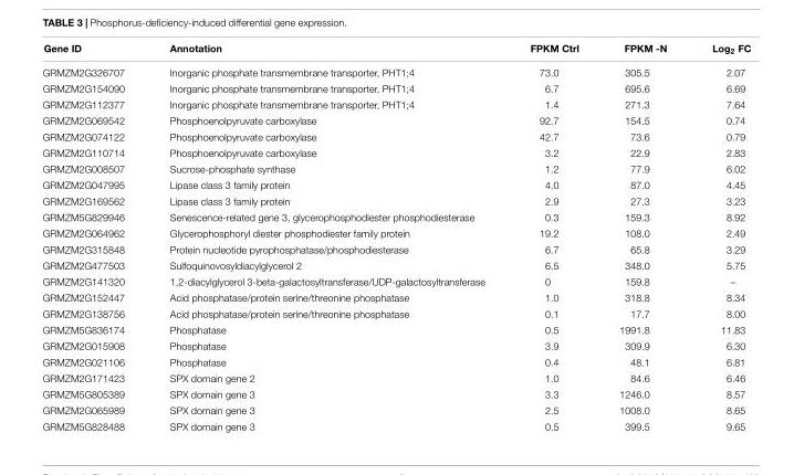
<table><thead><tr><td>Gene ID</td><td>Annotation</td><td>FPKM Ctrl</td><td>FPKM -N</td><td>Log<sub>2</sub> FC</td></tr></thead><tbody><tr><td>GRMZM2G326707</td><td>Inorganic phosphate transmembrane transporter, PHT1;4</td><td>73.0</td><td>305.5</td><td>2.07</td></tr><tr><td>GRMZM2G154090</td><td>Inorganic phosphate transmembrane transporter, PHT1;4</td><td>6.7</td><td>695.6</td><td>6.69</td></tr><tr><td>GRMZM2G112377</td><td>Inorganic phosphate transmembrane transporter, PHT1;4</td><td>1.4</td><td>271.3</td><td>7.64</td></tr><tr><td>GRMZM2G069542</td><td>Phosphoenolpyruvate carboxylase</td><td>92.7</td><td>154.5</td><td>0.74</td></tr><tr><td>GRMZM2G074122</td><td>Phosphoenolpyruvate carboxylase</td><td>42.7</td><td>73.6</td><td>0.79</td></tr><tr><td>GRMZM2G110714</td><td>Phosphoenolpyruvate carboxylase</td><td>3.2</td><td>22.9</td><td>2.83</td></tr><tr><td>GRMZM2G008507</td><td>Sucrose-phosphate synthase</td><td>1.2</td><td>77.9</td><td>6.02</td></tr><tr><td>GRMZM2G047995</td><td>Lipase class 3 family protein</td><td>4.0</td><td>87.0</td><td>4.45</td></tr><tr><td>GRMZM2G169562</td><td>Lipase class 3 family protein</td><td>2.9</td><td>27.3</td><td>3.23</td></tr><tr><td>GRMZM5G829946</td><td>Senescence-related gene 3, glycerophosphodiester phosphodiesterase</td><td>0.3</td><td>159.3</td><td>8.92</td></tr><tr><td>GRMZM2G064962</td><td>Glycerophosphoryl diester phosphodiester family protein</td><td>19.2</td><td>108.0</td><td>2.49</td></tr><tr><td>GRMZM2G315848</td><td>Protein nucleotide pyrophosphatase/phosphodiesterase</td><td>6.7</td><td>65.8</td><td>3.29</td></tr><tr><td>GRMZM2G477503</td><td>Sulfoquinovosyldiacylglycerol 2</td><td>6.5</td><td>348.0</td><td>5.75</td></tr><tr><td>GRMZM2G141320</td><td>1,2-diacylglycerol 3-beta-galactosyltransferase/UDP-galactosyltransferase</td><td>0</td><td>159.8</td><td>–</td></tr><tr><td>GRMZM2G152447</td><td>Acid phosphatase/protein serine/threonine phosphatase</td><td>1.0</td><td>318.8</td><td>8.34</td></tr><tr><td>GRMZM2G138756</td><td>Acid phosphatase/protein serine/threonine phosphatase</td><td>0.1</td><td>17.7</td><td>8.00</td></tr><tr><td>GRMZM5G836174</td><td>Phosphatase</td><td>0.5</td><td>1991.8</td><td>11.83</td></tr><tr><td>GRMZM2G015908</td><td>Phosphatase</td><td>3.9</td><td>309.9</td><td>6.30</td></tr><tr><td>GRMZM2G021106</td><td>Phosphatase</td><td>0.4</td><td>48.1</td><td>6.81</td></tr><tr><td>GRMZM2G171423</td><td>SPX domain gene 2</td><td>1.0</td><td>84.6</td><td>6.46</td></tr><tr><td>GRMZM5G805389</td><td>SPX domain gene 3</td><td>3.3</td><td>1246.0</td><td>8.57</td></tr><tr><td>GRMZM2G065989</td><td>SPX domain gene 3</td><td>2.5</td><td>1008.0</td><td>8.65</td></tr><tr><td>GRMZM5G828488</td><td>SPX domain gene 3</td><td>0.5</td><td>399.5</td><td>9.65</td></tr></tbody></table>